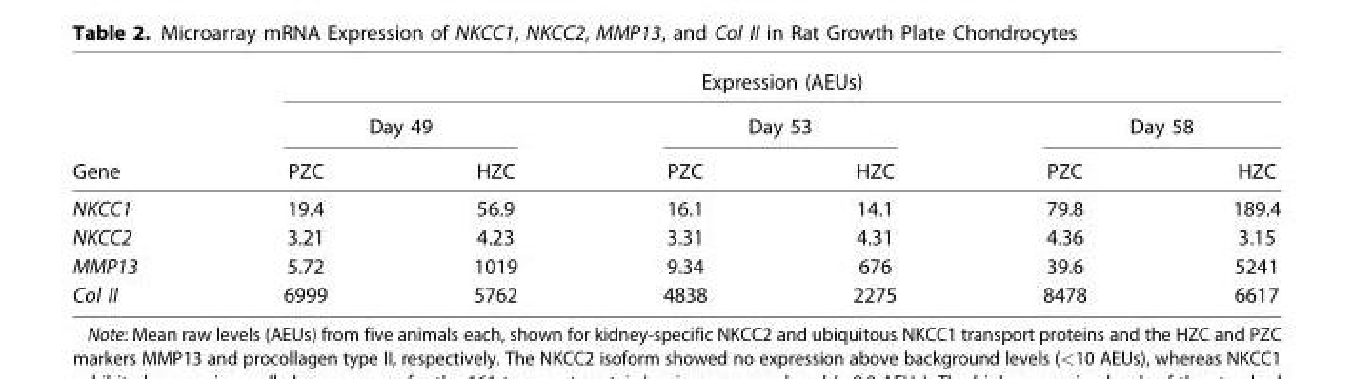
<table><thead><tr><td rowspan="3">Gene</td><td colspan="6">Expression (AEUs)</td></tr><tr><td colspan="2">Day 49</td><td colspan="2">Day 53</td><td colspan="2">Day 58</td></tr><tr><td>PZC</td><td>HZC</td><td>PZC</td><td>HZC</td><td>PZC</td><td>HZC</td></tr></thead><tbody><tr><td>NKCC1</td><td>19.4</td><td>56.9</td><td>16.1</td><td>14.1</td><td>79.8</td><td>189.4</td></tr><tr><td>NKCC2</td><td>3.21</td><td>4.23</td><td>3.31</td><td>4.31</td><td>4.36</td><td>3.15</td></tr><tr><td>MMP13</td><td>5.72</td><td>1019</td><td>9.34</td><td>676</td><td>39.6</td><td>5241</td></tr><tr><td>Col II</td><td>6999</td><td>5762</td><td>4838</td><td>2275</td><td>8478</td><td>6617</td></tr></tbody></table>